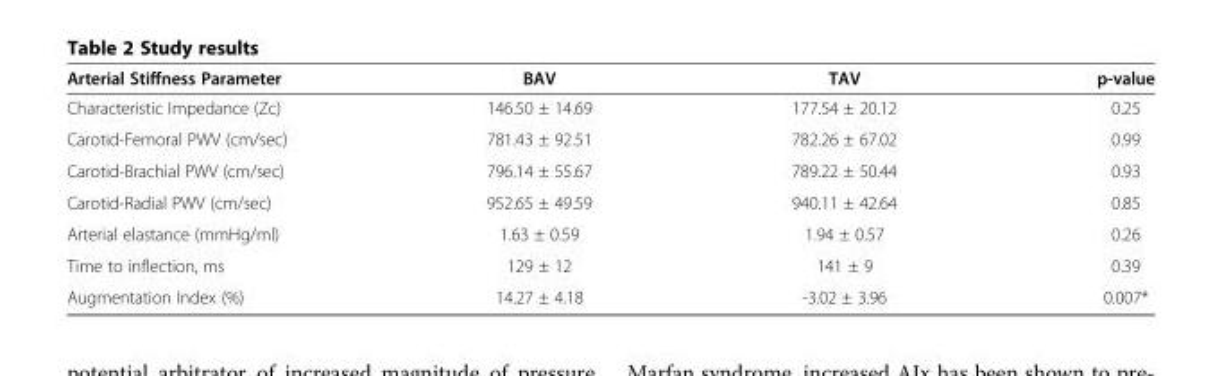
<table><thead><tr><td>Arterial Stiffness Parameter</td><td>BAV</td><td>TAV</td><td>p-value</td></tr></thead><tbody><tr><td>Characteristic Impedance (Zc)</td><td>146.50 ± 14.69</td><td>177.54 ± 20.12</td><td>0.25</td></tr><tr><td>Carotid-Femoral PWV (cm/sec)</td><td>781.43 ± 92.51</td><td>782.26 ± 67.02</td><td>0.99</td></tr><tr><td>Carotid-Brachial PWV (cm/sec)</td><td>796.14 ± 55.67</td><td>789.22 ± 50.44</td><td>0.93</td></tr><tr><td>Carotid-Radial PWV (cm/sec)</td><td>952.65 ± 49.59</td><td>940.11 ± 42.64</td><td>0.85</td></tr><tr><td>Arterial elastance (mmHg/ml)</td><td>1.63 ± 0.59</td><td>1.94 ± 0.57</td><td>0.26</td></tr><tr><td>Time to inflection, ms</td><td>129 ± 12</td><td>141 ± 9</td><td>0.39</td></tr><tr><td>Augmentation Index (%)</td><td>14.27 ± 4.18</td><td>-3.02 ± 3.96</td><td>0.007*</td></tr></tbody></table>